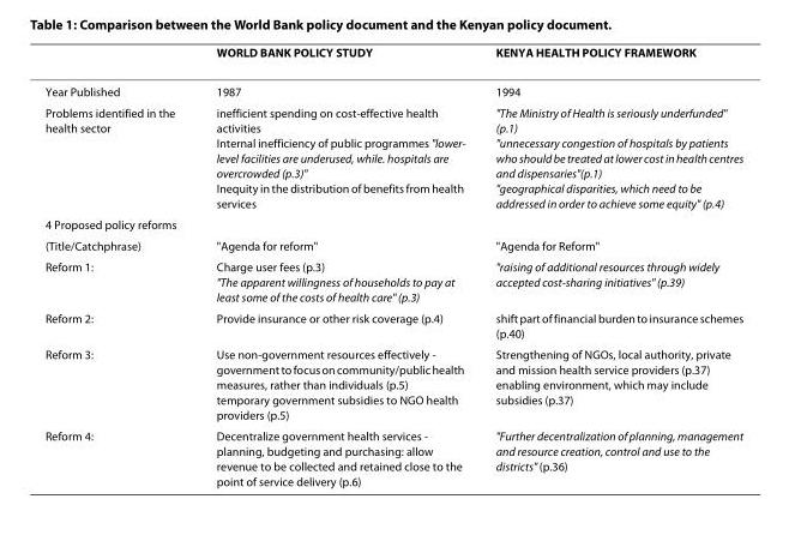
<table><thead><tr><td></td><td>WORLD BANK POLICY STUDY</td><td>KENYA HEALTH POLICY FRAMEWORK</td></tr></thead><tbody><tr><td>Year Published</td><td>1987</td><td>1994</td></tr><tr><td>Problems identified in the health sector</td><td>inefficient spending on cost-effective health activities Internal inefficiency of public programmes &quot;lower- level facilities are underused, while. hospitals are overcrowded (p.3)&quot; Inequity in the distribution of benefits from health services</td><td>&quot;The Ministry of Health is seriously underfunded&quot; (p.1) &quot;unnecessary congestion of hospitals by patients who should be treated at lower cost in health centres and dispensaries&quot;(p.1) &quot;geographical disparities, which need to be addressed in order to achieve some equity&quot; (p.4)</td></tr><tr><td colspan="3">4 Proposed policy reforms</td></tr><tr><td>(Title/Catchphrase)</td><td>&quot;Agenda for reform&quot;</td><td>&quot;Agenda for Reform&quot;</td></tr><tr><td>Reform 1:</td><td>Charge user fees (p.3) &quot;The apparent willingness of households to pay at least some of the costs of health care&quot; (p.3)</td><td>&quot;raising of additional resources through widely accepted cost-sharing initiatives&quot; (p.39)</td></tr><tr><td>Reform 2:</td><td>Provide insurance or other risk coverage (p.4)</td><td>shift part of financial burden to insurance schemes (p.40)</td></tr><tr><td>Reform 3:</td><td>Use non-government resources effectively - government to focus on community/public health measures, rather than individuals (p.5) temporary government subsidies to NGO health providers (p.5)</td><td>Strengthening of NGOs, local authority, private and mission health service providers (p.37) enabling environment, which may include subsidies (p.37)</td></tr><tr><td>Reform 4:</td><td>Decentralize government health services - planning, budgeting and purchasing: allow revenue to be collected and retained close to the point of service delivery (p.6)</td><td>&quot;Further decentralization of planning, management and resource creation, control and use to the districts&quot; (p.36)</td></tr></tbody></table>